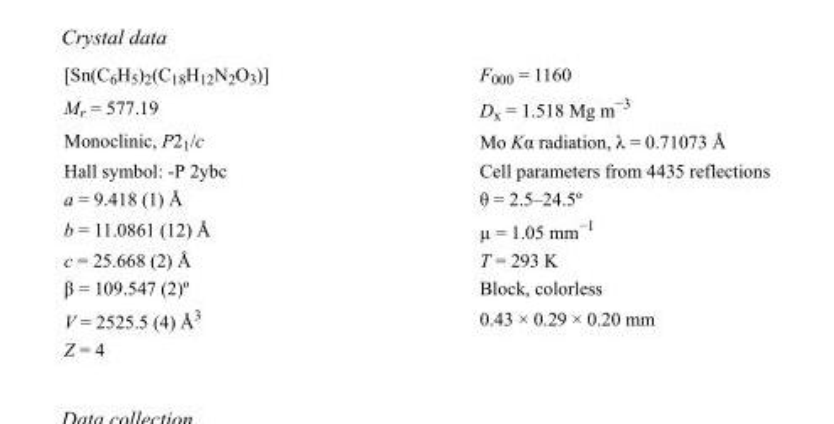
<table><tbody><tr><td>[Sn(C<sub>6</sub>H<sub>5</sub>)<sub>2</sub>(C<sub>18</sub>H<sub>12</sub>N<sub>2</sub>O<sub>3</sub>)]</td><td>F000 = 1160</td></tr><tr><td>M<sub>r</sub> = 577.19</td><td>D<sub>x</sub> = 1.518 Mg m<sup>−3</sup></td></tr><tr><td>Monoclinic, P2<sub>1</sub>/c</td><td>Mo Kα radiation, λ = 0.71073 Å</td></tr><tr><td>Hall symbol: -P 2ybc</td><td>Cell parameters from 4435 reflections</td></tr><tr><td>a = 9.418 (1) Å</td><td>θ = 2.5–24.5º</td></tr><tr><td>b = 11.0861 (12) Å</td><td>µ = 1.05 mm<sup>−1</sup></td></tr><tr><td>c = 25.668 (2) Å</td><td>T = 293 K</td></tr><tr><td>β = 109.547 (2)º</td><td>Block, colorless</td></tr><tr><td>V = 2525.5 (4) Å<sup>3</sup></td><td>0.43 × 0.29 × 0.20 mm</td></tr><tr><td>Z = 4</td><td></td></tr></tbody></table>